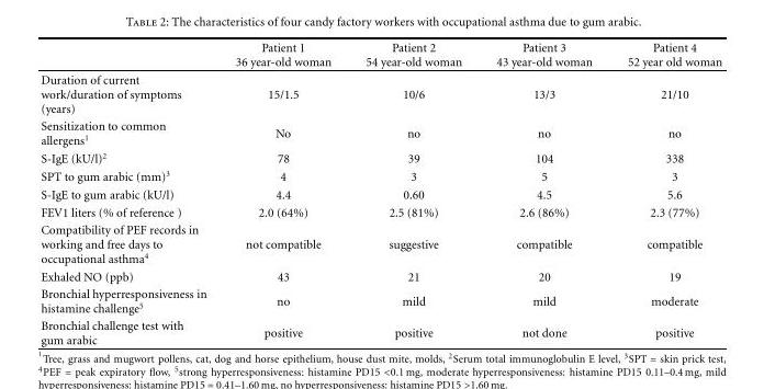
<table><thead><tr><td></td><td>Patient 1 36 year-old woman</td><td>Patient 2 54 year-old woman</td><td>Patient 3 43 year-old woman</td><td>Patient 4 52 year old woman</td></tr></thead><tbody><tr><td>Duration of current work/duration of symptoms (years)</td><td>15/1.5</td><td>10/6</td><td>13/3</td><td>21/10</td></tr><tr><td>Sensitization to common allergens<sup>1</sup></td><td>No</td><td>no</td><td>no</td><td>no</td></tr><tr><td>S-IgE (kU/l)<sup>2</sup></td><td>78</td><td>39</td><td>104</td><td>338</td></tr><tr><td>SPT to gum arabic (mm)<sup>3</sup></td><td>4</td><td>3</td><td>5</td><td>3</td></tr><tr><td>S-IgE to gum arabic (kU/l)</td><td>4.4</td><td>0.60</td><td>4.5</td><td>5.6</td></tr><tr><td>FEV1 liters (% of reference )</td><td>2.0 (64%)</td><td>2.5 (81%)</td><td>2.6 (86%)</td><td>2.3 (77%)</td></tr><tr><td>Compatibility of PEF records in working and free days to occupational asthma<sup>4</sup></td><td>not compatible</td><td>suggestive</td><td>compatible</td><td>compatible</td></tr><tr><td>Exhaled NO (ppb)</td><td>43</td><td>21</td><td>20</td><td>19</td></tr><tr><td>Bronchial hyperresponsiveness in histamine challenge<sup>5</sup></td><td>no</td><td>mild</td><td>mild</td><td>moderate</td></tr><tr><td>Bronchial challenge test with gum arabic</td><td>positive</td><td>positive</td><td>not done</td><td>positive</td></tr></tbody></table>